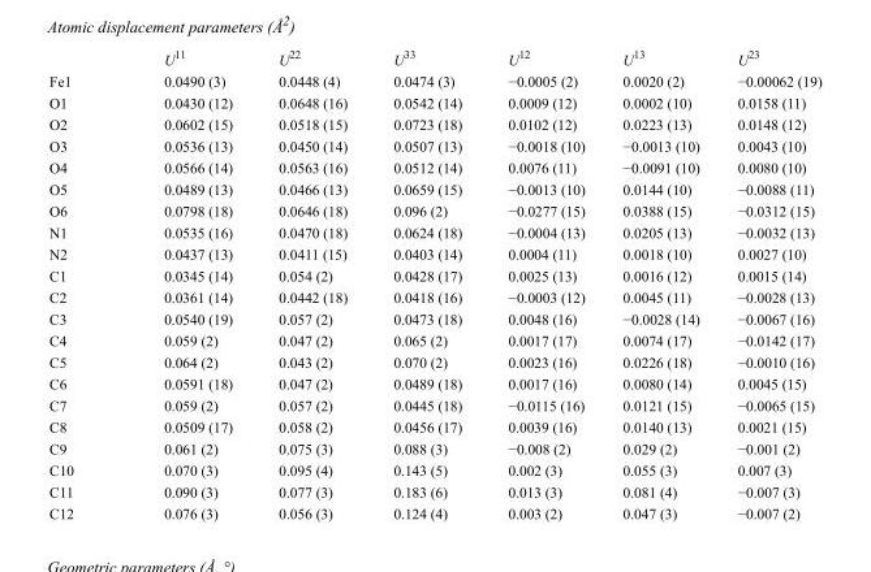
<table><thead><tr><td></td><td>U11</td><td>U22</td><td>U33</td><td>U12</td><td>U13</td><td>U23</td></tr></thead><tbody><tr><td>Fe1</td><td>0.0490 (3)</td><td>0.0448 (4)</td><td>0.0474 (3)</td><td>−0.0005 (2)</td><td>0.0020 (2)</td><td>−0.00062 (19)</td></tr><tr><td>O1</td><td>0.0430 (12)</td><td>0.0648 (16)</td><td>0.0542 (14)</td><td>0.0009 (12)</td><td>0.0002 (10)</td><td>0.0158 (11)</td></tr><tr><td>O2</td><td>0.0602 (15)</td><td>0.0518 (15)</td><td>0.0723 (18)</td><td>0.0102 (12)</td><td>0.0223 (13)</td><td>0.0148 (12)</td></tr><tr><td>O3</td><td>0.0536 (13)</td><td>0.0450 (14)</td><td>0.0507 (13)</td><td>−0.0018 (10)</td><td>−0.0013 (10)</td><td>0.0043 (10)</td></tr><tr><td>O4</td><td>0.0566 (14)</td><td>0.0563 (16)</td><td>0.0512 (14)</td><td>0.0076 (11)</td><td>−0.0091 (10)</td><td>0.0080 (10)</td></tr><tr><td>O5</td><td>0.0489 (13)</td><td>0.0466 (13)</td><td>0.0659 (15)</td><td>−0.0013 (10)</td><td>0.0144 (10)</td><td>−0.0088 (11)</td></tr><tr><td>O6</td><td>0.0798 (18)</td><td>0.0646 (18)</td><td>0.096 (2)</td><td>−0.0277 (15)</td><td>0.0388 (15)</td><td>−0.0312 (15)</td></tr><tr><td>N1</td><td>0.0535 (16)</td><td>0.0470 (18)</td><td>0.0624 (18)</td><td>−0.0004 (13)</td><td>0.0205 (13)</td><td>−0.0032 (13)</td></tr><tr><td>N2</td><td>0.0437 (13)</td><td>0.0411 (15)</td><td>0.0403 (14)</td><td>0.0004 (11)</td><td>0.0018 (10)</td><td>0.0027 (10)</td></tr><tr><td>C1</td><td>0.0345 (14)</td><td>0.054 (2)</td><td>0.0428 (17)</td><td>0.0025 (13)</td><td>0.0016 (12)</td><td>0.0015 (14)</td></tr><tr><td>C2</td><td>0.0361 (14)</td><td>0.0442 (18)</td><td>0.0418 (16)</td><td>−0.0003 (12)</td><td>0.0045 (11)</td><td>−0.0028 (13)</td></tr><tr><td>C3</td><td>0.0540 (19)</td><td>0.057 (2)</td><td>0.0473 (18)</td><td>0.0048 (16)</td><td>−0.0028 (14)</td><td>−0.0067 (16)</td></tr><tr><td>C4</td><td>0.059 (2)</td><td>0.047 (2)</td><td>0.065 (2)</td><td>0.0017 (17)</td><td>0.0074 (17)</td><td>−0.0142 (17)</td></tr><tr><td>C5</td><td>0.064 (2)</td><td>0.043 (2)</td><td>0.070 (2)</td><td>0.0023 (16)</td><td>0.0226 (18)</td><td>−0.0010 (16)</td></tr><tr><td>C6</td><td>0.0591 (18)</td><td>0.047 (2)</td><td>0.0489 (18)</td><td>0.0017 (16)</td><td>0.0080 (14)</td><td>0.0045 (15)</td></tr><tr><td>C7</td><td>0.059 (2)</td><td>0.057 (2)</td><td>0.0445 (18)</td><td>−0.0115 (16)</td><td>0.0121 (15)</td><td>−0.0065 (15)</td></tr><tr><td>C8</td><td>0.0509 (17)</td><td>0.058 (2)</td><td>0.0456 (17)</td><td>0.0039 (16)</td><td>0.0140 (13)</td><td>0.0021 (15)</td></tr><tr><td>C9</td><td>0.061 (2)</td><td>0.075 (3)</td><td>0.088 (3)</td><td>−0.008 (2)</td><td>0.029 (2)</td><td>−0.001 (2)</td></tr><tr><td>C10</td><td>0.070 (3)</td><td>0.095 (4)</td><td>0.143 (5)</td><td>0.002 (3)</td><td>0.055 (3)</td><td>0.007 (3)</td></tr><tr><td>C11</td><td>0.090 (3)</td><td>0.077 (3)</td><td>0.183 (6)</td><td>0.013 (3)</td><td>0.081 (4)</td><td>−0.007 (3)</td></tr><tr><td>C12</td><td>0.076 (3)</td><td>0.056 (3)</td><td>0.124 (4)</td><td>0.003 (2)</td><td>0.047 (3)</td><td>−0.007 (2)</td></tr></tbody></table>